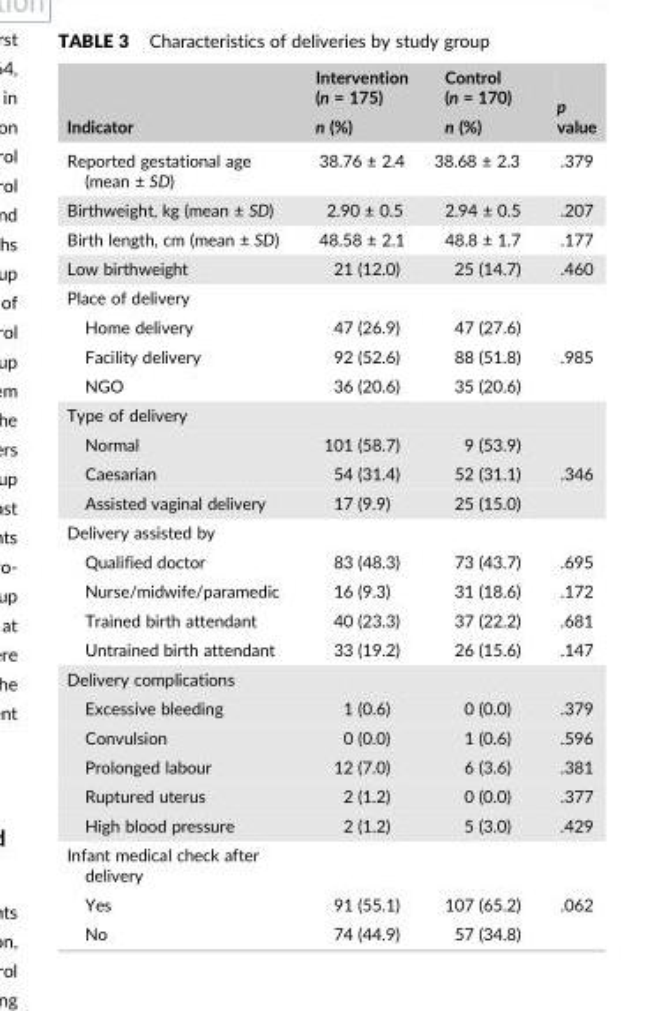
<table><thead><tr><td rowspan="2">Indicator</td><td rowspan="2">Intervention (n = 175) n (%)</td><td rowspan="2">Control (n = 170) n (%)</td><td rowspan="2">p value</td></tr><tr></tr></thead><tbody><tr><td>Reported gestational age (mean ± SD)</td><td>38.76 ± 2.4</td><td>38.68 ± 2.3</td><td>.379</td></tr><tr><td>Birthweight, kg (mean ± SD)</td><td>2.90 ± 0.5</td><td>2.94 ± 0.5</td><td>.207</td></tr><tr><td>Birth length, cm (mean ± SD)</td><td>48.58 ± 2.1</td><td>48.8 ± 1.7</td><td>.177</td></tr><tr><td>Low birthweight</td><td>21 (12.0)</td><td>25 (14.7)</td><td>.460</td></tr><tr><td colspan="4">Place of delivery</td></tr><tr><td>Home delivery</td><td>47 (26.9)</td><td>47 (27.6)</td><td></td></tr><tr><td>Facility delivery</td><td>92 (52.6)</td><td>88 (51.8)</td><td>.985</td></tr><tr><td>NGO</td><td>36 (20.6)</td><td>35 (20.6)</td><td></td></tr><tr><td colspan="4">Type of delivery</td></tr><tr><td>Normal</td><td>101 (58.7)</td><td>9 (53.9)</td><td></td></tr><tr><td>Caesarian</td><td>54 (31.4)</td><td>52 (31.1)</td><td>.346</td></tr><tr><td>Assisted vaginal delivery</td><td>17 (9.9)</td><td>25 (15.0)</td><td></td></tr><tr><td colspan="4">Delivery assisted by</td></tr><tr><td>Qualified doctor</td><td>83 (48.3)</td><td>73 (43.7)</td><td>.695</td></tr><tr><td>Nurse/midwife/paramedic</td><td>16 (9.3)</td><td>31 (18.6)</td><td>.172</td></tr><tr><td>Trained birth attendant</td><td>40 (23.3)</td><td>37 (22.2)</td><td>.681</td></tr><tr><td>Untrained birth attendant</td><td>33 (19.2)</td><td>26 (15.6)</td><td>.147</td></tr><tr><td colspan="4">Delivery complications</td></tr><tr><td>Excessive bleeding</td><td>1 (0.6)</td><td>0 (0.0)</td><td>.379</td></tr><tr><td>Convulsion</td><td>0 (0.0)</td><td>1 (0.6)</td><td>.596</td></tr><tr><td>Prolonged labour</td><td>12 (7.0)</td><td>6 (3.6)</td><td>.381</td></tr><tr><td>Ruptured uterus</td><td>2 (1.2)</td><td>0 (0.0)</td><td>.377</td></tr><tr><td>High blood pressure</td><td>2 (1.2)</td><td>5 (3.0)</td><td>.429</td></tr><tr><td colspan="4">Infant medical check after delivery</td></tr><tr><td>Yes</td><td>91 (55.1)</td><td>107 (65.2)</td><td>.062</td></tr><tr><td>No</td><td>74 (44.9)</td><td>57 (34.8)</td><td></td></tr></tbody></table>